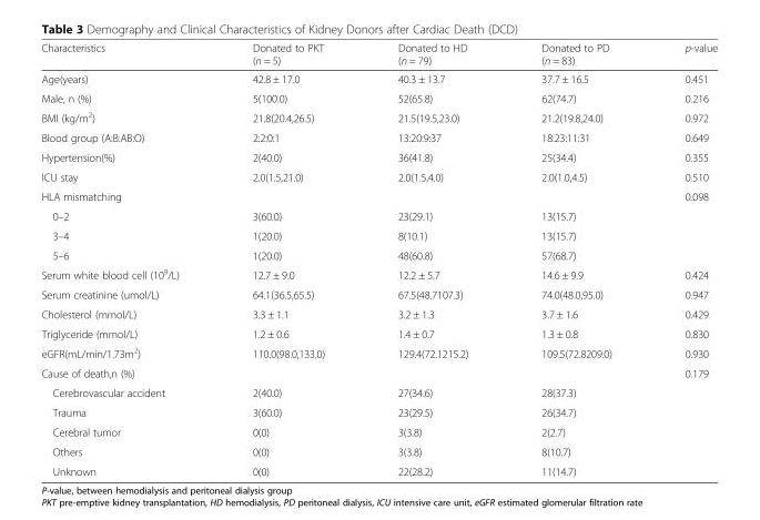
<table><thead><tr><td>Characteristics</td><td>Donated to PKT (n = 5)</td><td>Donated to HD (n = 79)</td><td>Donated to PD (n = 83)</td><td>p-value</td></tr></thead><tbody><tr><td>Age(years)</td><td>42.8 ± 17.0</td><td>40.3 ± 13.7</td><td>37.7 ± 16.5</td><td>0.451</td></tr><tr><td>Male, n (%)</td><td>5(100.0)</td><td>52(65.8)</td><td>62(74.7)</td><td>0.216</td></tr><tr><td>BMI (kg/m<sup>2</sup>)</td><td>21.8(20.4,26.5)</td><td>21.5(19.5,23.0)</td><td>21.2(19.8,24.0)</td><td>0.972</td></tr><tr><td>Blood group (A:B:AB:O)</td><td>2:2:0:1</td><td>13:20:9:37</td><td>18:23:11:31</td><td>0.649</td></tr><tr><td>Hypertension(%)</td><td>2(40.0)</td><td>36(41.8)</td><td>25(34.4)</td><td>0.355</td></tr><tr><td>ICU stay</td><td>2.0(1.5,21.0)</td><td>2.0(1.5,4.0)</td><td>2.0(1.0,4.5)</td><td>0.510</td></tr><tr><td>HLA mismatching</td><td></td><td></td><td></td><td>0.098</td></tr><tr><td>0–2</td><td>3(60.0)</td><td>23(29.1)</td><td>13(15.7)</td><td></td></tr><tr><td>3–4</td><td>1(20.0)</td><td>8(10.1)</td><td>13(15.7)</td><td></td></tr><tr><td>5–6</td><td>1(20.0)</td><td>48(60.8)</td><td>57(68.7)</td><td></td></tr><tr><td>Serum white blood cell (10<sup>9</sup>/L)</td><td>12.7 ± 9.0</td><td>12.2 ± 5.7</td><td>14.6 ± 9.9</td><td>0.424</td></tr><tr><td>Serum creatinine (umol/L)</td><td>64.1(36.5,65.5)</td><td>67.5(48.7107.3)</td><td>74.0(48.0,95.0)</td><td>0.947</td></tr><tr><td>Cholesterol (mmol/L)</td><td>3.3 ± 1.1</td><td>3.2 ± 1.3</td><td>3.7 ± 1.6</td><td>0.429</td></tr><tr><td>Triglyceride (mmol/L)</td><td>1.2 ± 0.6</td><td>1.4 ± 0.7</td><td>1.3 ± 0.8</td><td>0.830</td></tr><tr><td>eGFR(mL/min/1.73m<sup>2</sup>)</td><td>110.0(98.0,133.0)</td><td>129.4(72.1215.2)</td><td>109.5(72.8209.0)</td><td>0.930</td></tr><tr><td>Cause of death,n (%)</td><td></td><td></td><td></td><td>0.179</td></tr><tr><td>Cerebrovascular accident</td><td>2(40.0)</td><td>27(34.6)</td><td>28(37.3)</td><td></td></tr><tr><td>Trauma</td><td>3(60.0)</td><td>23(29.5)</td><td>26(34.7)</td><td></td></tr><tr><td>Cerebral tumor</td><td>0(0)</td><td>3(3.8)</td><td>2(2.7)</td><td></td></tr><tr><td>Others</td><td>0(0)</td><td>3(3.8)</td><td>8(10.7)</td><td></td></tr><tr><td>Unknown</td><td>0(0)</td><td>22(28.2)</td><td>11(14.7)</td><td></td></tr></tbody></table>